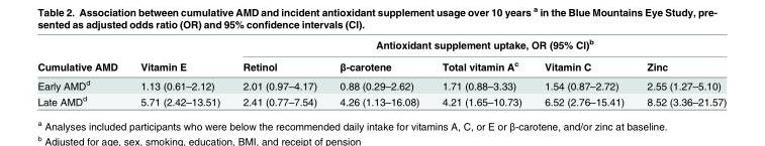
<table><thead><tr><td rowspan="2">Cumulative AMD</td><td rowspan="2">Vitamin E</td><td colspan="5">Antioxidant supplement uptake, OR (95% CI)<sup>b</sup></td></tr><tr><td>Retinol</td><td>β-carotene</td><td>Total vitamin A<sup>c</sup></td><td>Vitamin C</td><td>Zinc</td></tr></thead><tbody><tr><td>Early AMD<sup>d</sup></td><td>1.13 (0.61–2.12)</td><td>2.01 (0.97–4.17)</td><td>0.88 (0.29–2.62)</td><td>1.71 (0.88–3.33)</td><td>1.54 (0.87–2.72)</td><td>2.55 (1.27–5.10)</td></tr><tr><td>Late AMD<sup>d</sup></td><td>5.71 (2.42–13.51)</td><td>2.41 (0.77–7.54)</td><td>4.26 (1.13–16.08)</td><td>4.21 (1.65–10.73)</td><td>6.52 (2.76–15.41)</td><td>8.52 (3.36–21.57)</td></tr></tbody></table>